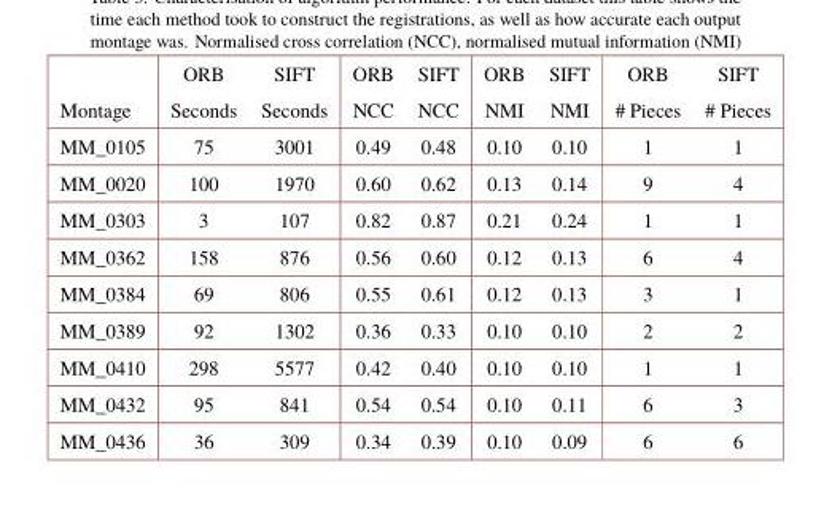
<table><thead><tr><td rowspan="2">Montage</td><td rowspan="2">ORB Seconds</td><td rowspan="2">SIFT Seconds</td><td rowspan="2">ORB NCC</td><td rowspan="2">SIFT NCC</td><td rowspan="2">ORB NMI</td><td rowspan="2">SIFT NMI</td><td rowspan="2">ORB # Pieces</td><td rowspan="2">SIFT # Pieces</td></tr><tr></tr></thead><tbody><tr><td>MM_0105</td><td>75</td><td>3001</td><td>0.49</td><td>0.48</td><td>0.10</td><td>0.10</td><td>1</td><td>1</td></tr><tr><td>MM_0020</td><td>100</td><td>1970</td><td>0.60</td><td>0.62</td><td>0.13</td><td>0.14</td><td>9</td><td>4</td></tr><tr><td>MM_0303</td><td>3</td><td>107</td><td>0.82</td><td>0.87</td><td>0.21</td><td>0.24</td><td>1</td><td>1</td></tr><tr><td>MM_0362</td><td>158</td><td>876</td><td>0.56</td><td>0.60</td><td>0.12</td><td>0.13</td><td>6</td><td>4</td></tr><tr><td>MM_0384</td><td>69</td><td>806</td><td>0.55</td><td>0.61</td><td>0.12</td><td>0.13</td><td>3</td><td>1</td></tr><tr><td>MM_0389</td><td>92</td><td>1302</td><td>0.36</td><td>0.33</td><td>0.10</td><td>0.10</td><td>2</td><td>2</td></tr><tr><td>MM_0410</td><td>298</td><td>5577</td><td>0.42</td><td>0.40</td><td>0.10</td><td>0.10</td><td>1</td><td>1</td></tr><tr><td>MM_0432</td><td>95</td><td>841</td><td>0.54</td><td>0.54</td><td>0.10</td><td>0.11</td><td>6</td><td>3</td></tr><tr><td>MM_0436</td><td>36</td><td>309</td><td>0.34</td><td>0.39</td><td>0.10</td><td>0.09</td><td>6</td><td>6</td></tr></tbody></table>